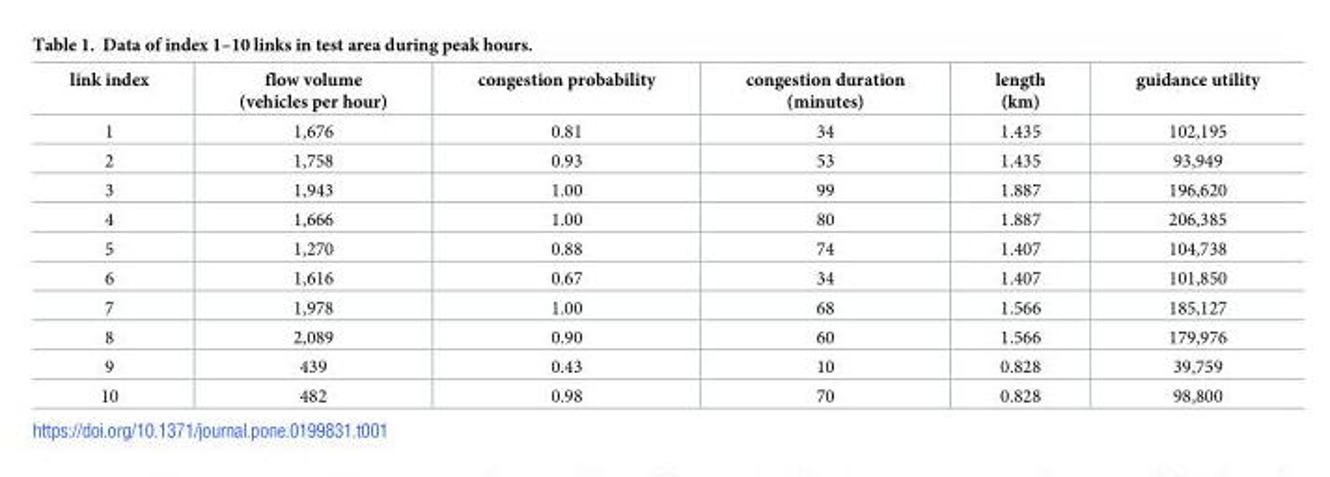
<table><thead><tr><td>link index</td><td>flow volume (vehicles per hour)</td><td>congestion probability</td><td>congestion duration (minutes)</td><td>length (km)</td><td>guidance utility</td></tr></thead><tbody><tr><td>1</td><td>1,676</td><td>0.81</td><td>34</td><td>1.435</td><td>102,195</td></tr><tr><td>2</td><td>1,758</td><td>0.93</td><td>53</td><td>1.435</td><td>93,949</td></tr><tr><td>3</td><td>1,943</td><td>1.00</td><td>99</td><td>1.887</td><td>196,620</td></tr><tr><td>4</td><td>1,666</td><td>1.00</td><td>80</td><td>1.887</td><td>206,385</td></tr><tr><td>5</td><td>1,270</td><td>0.88</td><td>74</td><td>1.407</td><td>104,738</td></tr><tr><td>6</td><td>1,616</td><td>0.67</td><td>34</td><td>1.407</td><td>101,850</td></tr><tr><td>7</td><td>1,978</td><td>1.00</td><td>68</td><td>1.566</td><td>185,127</td></tr><tr><td>8</td><td>2,089</td><td>0.90</td><td>60</td><td>1.566</td><td>179,976</td></tr><tr><td>9</td><td>439</td><td>0.43</td><td>10</td><td>0.828</td><td>39,759</td></tr><tr><td>10</td><td>482</td><td>0.98</td><td>70</td><td>0.828</td><td>98,800</td></tr></tbody></table>